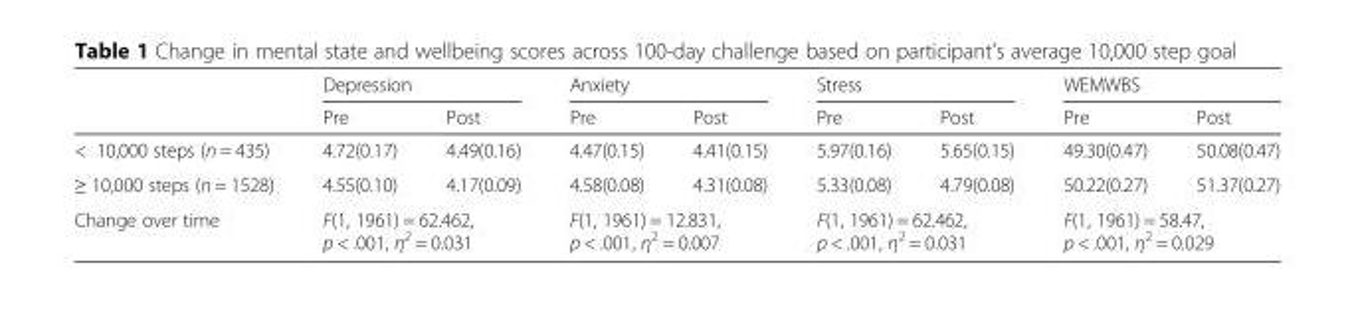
<table><thead><tr><td rowspan="2"></td><td colspan="2">Depression</td><td colspan="2">Anxiety</td><td colspan="2">Stress</td><td colspan="2">WEMWBS</td></tr><tr><td>Pre</td><td>Post</td><td>Pre</td><td>Post</td><td>Pre</td><td>Post</td><td>Pre</td><td>Post</td></tr></thead><tbody><tr><td>&lt; 10,000 steps (n = 435)</td><td>4.72(0.17)</td><td>4.49(0.16)</td><td>4.47(0.15)</td><td>4.41(0.15)</td><td>5.97(0.16)</td><td>5.65(0.15)</td><td>49.30(0.47)</td><td>50.08(0.47)</td></tr><tr><td>≥ 10,000 steps (n = 1528)</td><td>4.55(0.10)</td><td>4.17(0.09)</td><td>4.58(0.08)</td><td>4.31(0.08)</td><td>5.33(0.08)</td><td>4.79(0.08)</td><td>50.22(0.27)</td><td>51.37(0.27)</td></tr><tr><td>Change over time</td><td colspan="2">F(1, 1961) = 62.462, p &lt; .001, η<sup>2</sup> = 0.031</td><td colspan="2">F(1, 1961) = 12.831, p &lt; .001, η<sup>2</sup> = 0.007</td><td colspan="2">F(1, 1961) = 62.462, p &lt; .001, η<sup>2</sup> = 0.031</td><td colspan="2">F(1, 1961) = 58.47, p &lt; .001, η<sup>2</sup> = 0.029</td></tr></tbody></table>